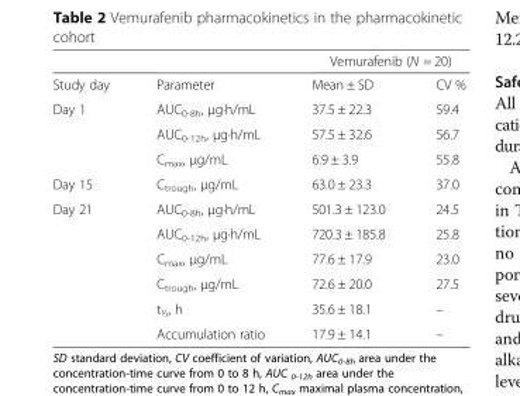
<table><thead><tr><td rowspan="2">Study day</td><td rowspan="2">Parameter</td><td colspan="2">Vemurafenib (N = 20)</td></tr><tr><td>Mean ± SD</td><td>CV %</td></tr></thead><tbody><tr><td rowspan="3">Day 1</td><td>AUC<sub>0-8h</sub>, μg·h/mL</td><td>37.5 ± 22.3</td><td>59.4</td></tr><tr><td>AUC<sub>0-12h</sub>, μg·h/mL</td><td>57.5 ± 32.6</td><td>56.7</td></tr><tr><td>C<sub>max</sub>, μg/mL</td><td>6.9 ± 3.9</td><td>55.8</td></tr><tr><td>Day 15</td><td>C<sub>trough</sub>, μg/mL</td><td>63.0 ± 23.3</td><td>37.0</td></tr><tr><td rowspan="6">Day 21</td><td>AUC<sub>0-8h</sub>, μg·h/mL</td><td>501.3 ± 123.0</td><td>24.5</td></tr><tr><td>AUC<sub>0-12h</sub>, μg·h/mL</td><td>720.3 ± 185.8</td><td>25.8</td></tr><tr><td>C<sub>max</sub>, μg/mL</td><td>77.6 ± 17.9</td><td>23.0</td></tr><tr><td>C<sub>trough</sub>, μg/mL</td><td>72.6 ± 20.0</td><td>27.5</td></tr><tr><td>t<sub>½</sub>, h</td><td>35.6 ± 18.1</td><td>–</td></tr><tr><td>Accumulation ratio</td><td>17.9 ± 14.1</td><td>–</td></tr></tbody></table>